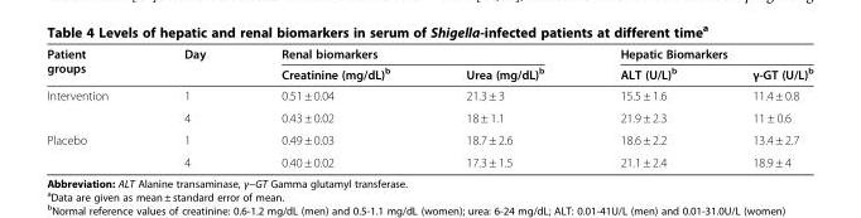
<table><thead><tr><td rowspan="2">Patient groups</td><td rowspan="2">Day</td><td colspan="2">Renal biomarkers</td><td colspan="2">Hepatic Biomarkers</td></tr><tr><td>Creatinine (mg/dL)<sup>b</sup></td><td>Urea (mg/dL)<sup>b</sup></td><td>ALT (U/L)<sup>b</sup></td><td>γ-GT (U/L)<sup>b</sup></td></tr></thead><tbody><tr><td rowspan="2">Intervention</td><td>1</td><td>0.51 ± 0.04</td><td>21.3 ± 3</td><td>15.5 ± 1.6</td><td>11.4 ± 0.8</td></tr><tr><td>4</td><td>0.43 ± 0.02</td><td>18 ± 1.1</td><td>21.9 ± 2.3</td><td>11 ± 0.6</td></tr><tr><td rowspan="2">Placebo</td><td>1</td><td>0.49 ± 0.03</td><td>18.7 ± 2.6</td><td>18.6 ± 2.2</td><td>13.4 ± 2.7</td></tr><tr><td>4</td><td>0.40 ± 0.02</td><td>17.3 ± 1.5</td><td>21.1 ± 2.4</td><td>18.9 ± 4</td></tr></tbody></table>